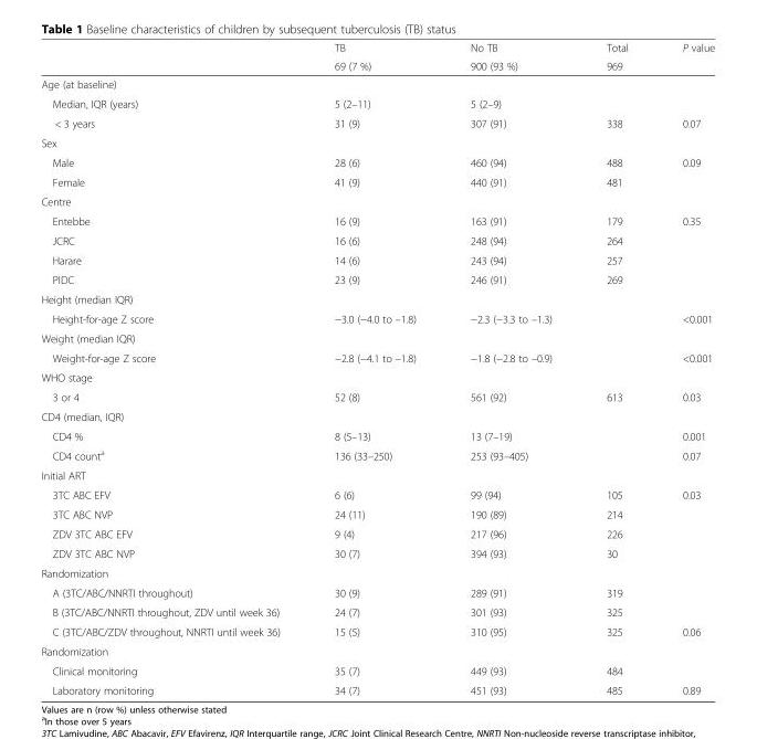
<table><thead><tr><td rowspan="2"></td><td rowspan="2">TB 69 (7 %)</td><td rowspan="2">No TB 900 (93 %)</td><td rowspan="2">Total 969</td><td rowspan="2">P value</td></tr><tr></tr></thead><tbody><tr><td colspan="5">Age (at baseline)</td></tr><tr><td>Median, IQR (years)</td><td>5 (2–11)</td><td>5 (2–9)</td><td></td><td></td></tr><tr><td>&lt; 3 years</td><td>31 (9)</td><td>307 (91)</td><td>338</td><td>0.07</td></tr><tr><td colspan="5">Sex</td></tr><tr><td>Male</td><td>28 (6)</td><td>460 (94)</td><td>488</td><td>0.09</td></tr><tr><td>Female</td><td>41 (9)</td><td>440 (91)</td><td>481</td><td></td></tr><tr><td colspan="5">Centre</td></tr><tr><td>Entebbe</td><td>16 (9)</td><td>163 (91)</td><td>179</td><td>0.35</td></tr><tr><td>JCRC</td><td>16 (6)</td><td>248 (94)</td><td>264</td><td></td></tr><tr><td>Harare</td><td>14 (6)</td><td>243 (94)</td><td>257</td><td></td></tr><tr><td>PIDC</td><td>23 (9)</td><td>246 (91)</td><td>269</td><td></td></tr><tr><td colspan="5">Height (median IQR)</td></tr><tr><td>Height-for-age Z score</td><td>−3.0 (−4.0 to –1.8)</td><td>−2.3 (−3.3 to –1.3)</td><td></td><td>&lt;0.001</td></tr><tr><td colspan="5">Weight (median IQR)</td></tr><tr><td>Weight-for-age Z score</td><td>−2.8 (−4.1 to –1.8)</td><td>−1.8 (−2.8 to –0.9)</td><td></td><td>&lt;0.001</td></tr><tr><td colspan="5">WHO stage</td></tr><tr><td>3 or 4</td><td>52 (8)</td><td>561 (92)</td><td>613</td><td>0.03</td></tr><tr><td colspan="5">CD4 (median, IQR)</td></tr><tr><td>CD4 %</td><td>8 (5–13)</td><td>13 (7–19)</td><td></td><td>0.001</td></tr><tr><td>CD4 count<sup>a</sup></td><td>136 (33–250)</td><td>253 (93–405)</td><td></td><td>0.07</td></tr><tr><td colspan="5">Initial ART</td></tr><tr><td>3TC ABC EFV</td><td>6 (6)</td><td>99 (94)</td><td>105</td><td>0.03</td></tr><tr><td>3TC ABC NVP</td><td>24 (11)</td><td>190 (89)</td><td>214</td><td></td></tr><tr><td>ZDV 3TC ABC EFV</td><td>9 (4)</td><td>217 (96)</td><td>226</td><td></td></tr><tr><td>ZDV 3TC ABC NVP</td><td>30 (7)</td><td>394 (93)</td><td>30</td><td></td></tr><tr><td colspan="5">Randomization</td></tr><tr><td>A (3TC/ABC/NNRTI throughout)</td><td>30 (9)</td><td>289 (91)</td><td>319</td><td></td></tr><tr><td>B (3TC/ABC/NNRTI throughout, ZDV until week 36)</td><td>24 (7)</td><td>301 (93)</td><td>325</td><td></td></tr><tr><td>C (3TC/ABC/ZDV throughout, NNRTI until week 36)</td><td>15 (5)</td><td>310 (95)</td><td>325</td><td>0.06</td></tr><tr><td colspan="5">Randomization</td></tr><tr><td>Clinical monitoring</td><td>35 (7)</td><td>449 (93)</td><td>484</td><td></td></tr><tr><td>Laboratory monitoring</td><td>34 (7)</td><td>451 (93)</td><td>485</td><td>0.89</td></tr></tbody></table>